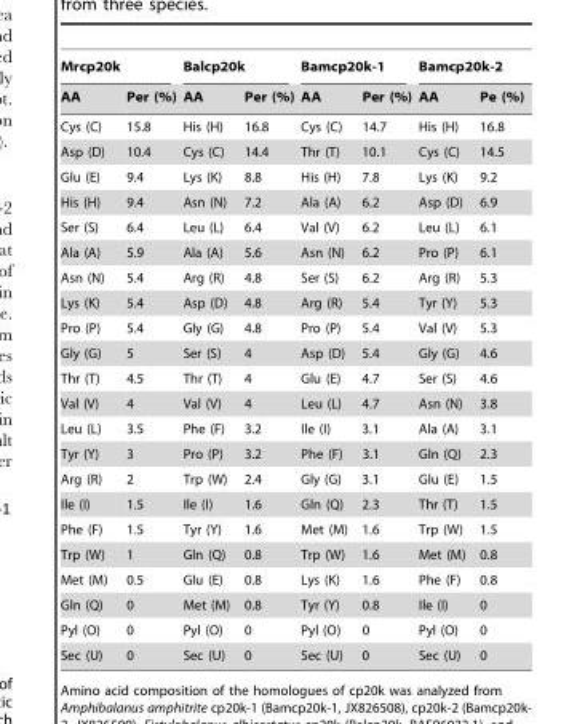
<table><thead><tr><td colspan="2">Mrcp20k</td><td colspan="2">Balcp20k</td><td colspan="2">Bamcp20k-1</td><td colspan="2">Bamcp20k-2</td></tr><tr><td>AA</td><td>Per (%)</td><td>AA</td><td>Per (%)</td><td>AA</td><td>Per (%)</td><td>AA</td><td>Pe (%)</td></tr></thead><tbody><tr><td>Cys (C)</td><td>15.8</td><td>His (H)</td><td>16.8</td><td>Cys (C)</td><td>14.7</td><td>His (H)</td><td>16.8</td></tr><tr><td>Asp (D)</td><td>10.4</td><td>Cys (C)</td><td>14.4</td><td>Thr (T)</td><td>10.1</td><td>Cys (C)</td><td>14.5</td></tr><tr><td>Glu (E)</td><td>9.4</td><td>Lys (K)</td><td>8.8</td><td>His (H)</td><td>7.8</td><td>Lys (K)</td><td>9.2</td></tr><tr><td>His (H)</td><td>9.4</td><td>Asn (N)</td><td>7.2</td><td>Ala (A)</td><td>6.2</td><td>Asp (D)</td><td>6.9</td></tr><tr><td>Ser (S)</td><td>6.4</td><td>Leu (L)</td><td>6.4</td><td>Val (V)</td><td>6.2</td><td>Leu (L)</td><td>6.1</td></tr><tr><td>Ala (A)</td><td>5.9</td><td>Ala (A)</td><td>5.6</td><td>Asn (N)</td><td>6.2</td><td>Pro (P)</td><td>6.1</td></tr><tr><td>Asn (N)</td><td>5.4</td><td>Arg (R)</td><td>4.8</td><td>Ser (S)</td><td>6.2</td><td>Arg (R)</td><td>5.3</td></tr><tr><td>Lys (K)</td><td>5.4</td><td>Asp (D)</td><td>4.8</td><td>Arg (R)</td><td>5.4</td><td>Tyr (Y)</td><td>5.3</td></tr><tr><td>Pro (P)</td><td>5.4</td><td>Gly (G)</td><td>4.8</td><td>Pro (P)</td><td>5.4</td><td>Val (V)</td><td>5.3</td></tr><tr><td>Gly (G)</td><td>5</td><td>Ser (S)</td><td>4</td><td>Asp (D)</td><td>5.4</td><td>Gly (G)</td><td>4.6</td></tr><tr><td>Thr (T)</td><td>4.5</td><td>Thr (T)</td><td>4</td><td>Glu (E)</td><td>4.7</td><td>Ser (S)</td><td>4.6</td></tr><tr><td>Val (V)</td><td>4</td><td>Val (V)</td><td>4</td><td>Leu (L)</td><td>4.7</td><td>Asn (N)</td><td>3.8</td></tr><tr><td>Leu (L)</td><td>3.5</td><td>Phe (F)</td><td>3.2</td><td>Ile (I)</td><td>3.1</td><td>Ala (A)</td><td>3.1</td></tr><tr><td>Tyr (Y)</td><td>3</td><td>Pro (P)</td><td>3.2</td><td>Phe (F)</td><td>3.1</td><td>Gln (Q)</td><td>2.3</td></tr><tr><td>Arg (R)</td><td>2</td><td>Trp (W)</td><td>2.4</td><td>Gly (G)</td><td>3.1</td><td>Glu (E)</td><td>1.5</td></tr><tr><td>Ile (I)</td><td>1.5</td><td>Ile (I)</td><td>1.6</td><td>Gln (Q)</td><td>2.3</td><td>Thr (T)</td><td>1.5</td></tr><tr><td>Phe (F)</td><td>1.5</td><td>Tyr (Y)</td><td>1.6</td><td>Met (M)</td><td>1.6</td><td>Trp (W)</td><td>1.5</td></tr><tr><td>Trp (W)</td><td>1</td><td>Gln (Q)</td><td>0.8</td><td>Trp (W)</td><td>1.6</td><td>Met (M)</td><td>0.8</td></tr><tr><td>Met (M)</td><td>0.5</td><td>Glu (E)</td><td>0.8</td><td>Lys (K)</td><td>1.6</td><td>Phe (F)</td><td>0.8</td></tr><tr><td>Gln (Q)</td><td>0</td><td>Met (M)</td><td>0.8</td><td>Tyr (Y)</td><td>0.8</td><td>Ile (I)</td><td>0</td></tr><tr><td>Pyl (O)</td><td>0</td><td>Pyl (O)</td><td>0</td><td>Pyl (O)</td><td>0</td><td>Pyl (O)</td><td>0</td></tr><tr><td>Sec (U)</td><td>0</td><td>Sec (U)</td><td>0</td><td>Sec (U)</td><td>0</td><td>Sec (U)</td><td>0</td></tr></tbody></table>